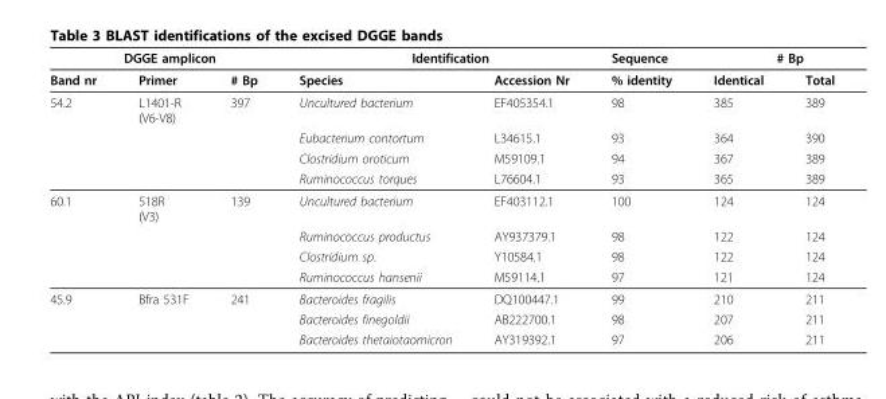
<table><thead><tr><td colspan="3">DGGE amplicon</td><td colspan="2">Identification</td><td rowspan="2">Sequence % identity</td><td colspan="2"># Bp</td></tr><tr><td>Band nr</td><td>Primer</td><td># Bp</td><td>Species</td><td>Accession Nr</td><td>Identical</td><td>Total</td></tr></thead><tbody><tr><td rowspan="4">54.2</td><td>L1401-R (V6-V8)</td><td>397</td><td>Uncultured bacterium</td><td>EF405354.1</td><td>98</td><td>385</td><td>389</td></tr><tr><td></td><td></td><td>Eubacterium contortum</td><td>L34615.1</td><td>93</td><td>364</td><td>390</td></tr><tr><td></td><td></td><td>Clostridium oroticum</td><td>M59109.1</td><td>94</td><td>367</td><td>389</td></tr><tr><td></td><td></td><td>Ruminococcus torques</td><td>L76604.1</td><td>93</td><td>365</td><td>389</td></tr><tr><td rowspan="4">60.1</td><td>518R (V3)</td><td>139</td><td>Uncultured bacterium</td><td>EF403112.1</td><td>100</td><td>124</td><td>124</td></tr><tr><td></td><td></td><td>Ruminococcus productus</td><td>AY937379.1</td><td>98</td><td>122</td><td>124</td></tr><tr><td></td><td></td><td>Clostridium sp.</td><td>Y10584.1</td><td>98</td><td>122</td><td>124</td></tr><tr><td></td><td></td><td>Ruminococcus hansenii</td><td>M59114.1</td><td>97</td><td>121</td><td>124</td></tr><tr><td rowspan="3">45.9</td><td>Bfra 531F</td><td>241</td><td>Bacteroides fragilis</td><td>DQ100447.1</td><td>99</td><td>210</td><td>211</td></tr><tr><td></td><td></td><td>Bacteroides finegoldii</td><td>AB222700.1</td><td>98</td><td>207</td><td>211</td></tr><tr><td></td><td></td><td>Bacteroides thetaiotaomicron</td><td>AY319392.1</td><td>97</td><td>206</td><td>211</td></tr></tbody></table>